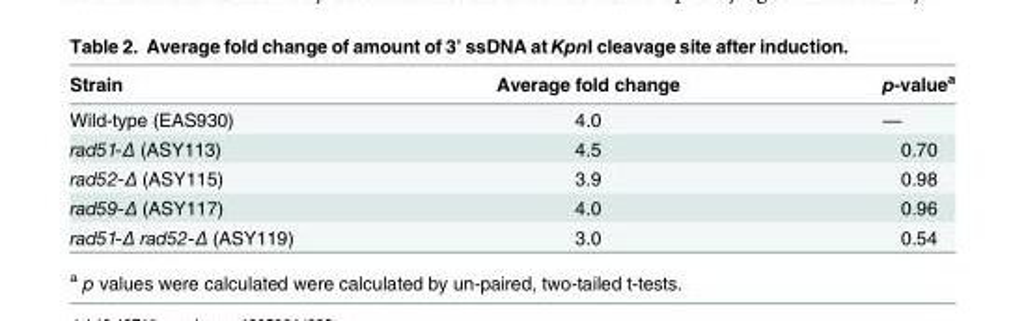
<table><thead><tr><td>Strain</td><td>Average fold change</td><td>p-value<sup>a</sup></td></tr></thead><tbody><tr><td>Wild-type (EAS930)</td><td>4.0</td><td>—</td></tr><tr><td>rad51-Δ (ASY113)</td><td>4.5</td><td>0.70</td></tr><tr><td>rad52-Δ (ASY115)</td><td>3.9</td><td>0.98</td></tr><tr><td>rad59-Δ (ASY117)</td><td>4.0</td><td>0.96</td></tr><tr><td>rad51-Δ rad52-Δ (ASY119)</td><td>3.0</td><td>0.54</td></tr></tbody></table>